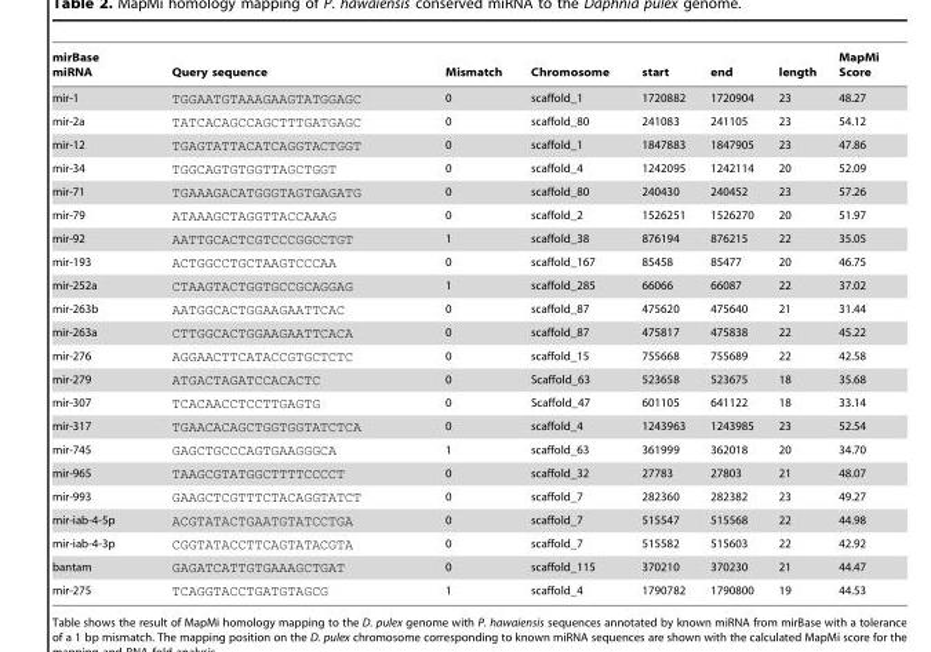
<table><thead><tr><td>mirBase miRNA</td><td>Query sequence</td><td>Mismatch</td><td>Chromosome</td><td>start</td><td>end</td><td>length</td><td>MapMi Score</td></tr></thead><tbody><tr><td>mir-1</td><td>TGGAATGTAAAGAAGTATGGAGC</td><td>0</td><td>scaffold_1</td><td>1720882</td><td>1720904</td><td>23</td><td>48.27</td></tr><tr><td>mir-2a</td><td>TATCACAGCCAGCTTTGATGAGC</td><td>0</td><td>scaffold_80</td><td>241083</td><td>241105</td><td>23</td><td>54.12</td></tr><tr><td>mir-12</td><td>TGAGTATTACATCAGGTACTGGT</td><td>0</td><td>scaffold_1</td><td>1847883</td><td>1847905</td><td>23</td><td>47.86</td></tr><tr><td>mir-34</td><td>TGGCAGTGTGGTTAGCTGGT</td><td>0</td><td>scaffold_4</td><td>1242095</td><td>1242114</td><td>20</td><td>52.09</td></tr><tr><td>mir-71</td><td>TGAAAGACATGGGTAGTGAGATG</td><td>0</td><td>scaffold_80</td><td>240430</td><td>240452</td><td>23</td><td>57.26</td></tr><tr><td>mir-79</td><td>ATAAAGCTAGGTTACCAAAG</td><td>0</td><td>scaffold_2</td><td>1526251</td><td>1526270</td><td>20</td><td>51.97</td></tr><tr><td>mir-92</td><td>AATTGCACTCGTCCCGGCCTGT</td><td>1</td><td>scaffold_38</td><td>876194</td><td>876215</td><td>22</td><td>35.05</td></tr><tr><td>mir-193</td><td>ACTGGCCTGCTAAGTCCCAA</td><td>0</td><td>scaffold_167</td><td>85458</td><td>85477</td><td>20</td><td>46.75</td></tr><tr><td>mir-252a</td><td>CTAAGTACTGGTGCCGCAGGAG</td><td>1</td><td>scaffold_285</td><td>66066</td><td>66087</td><td>22</td><td>37.02</td></tr><tr><td>mir-263b</td><td>AATGGCACTGGAAGAATTCAC</td><td>0</td><td>scaffold_87</td><td>475620</td><td>475640</td><td>21</td><td>31.44</td></tr><tr><td>mir-263a</td><td>CTTGGCACTGGAAGAATTCACA</td><td>0</td><td>scaffold_87</td><td>475817</td><td>475838</td><td>22</td><td>45.22</td></tr><tr><td>mir-276</td><td>AGGAACTTCATACCGTGCTCTC</td><td>0</td><td>scaffold_15</td><td>755668</td><td>755689</td><td>22</td><td>42.58</td></tr><tr><td>mir-279</td><td>ATGACTAGATCCACACTC</td><td>0</td><td>Scaffold_63</td><td>523658</td><td>523675</td><td>18</td><td>35.68</td></tr><tr><td>mir-307</td><td>TCACAACCTCCTTGAGTG</td><td>0</td><td>Scaffold_47</td><td>601105</td><td>641122</td><td>18</td><td>33.14</td></tr><tr><td>mir-317</td><td>TGAACACAGCTGGTGGTATCTCA</td><td>0</td><td>scaffold_4</td><td>1243963</td><td>1243985</td><td>23</td><td>52.54</td></tr><tr><td>mir-745</td><td>GAGCTGCCCAGTGAAGGGCA</td><td>1</td><td>scaffold_63</td><td>361999</td><td>362018</td><td>20</td><td>34.70</td></tr><tr><td>mir-965</td><td>TAAGCGTATGGCTTTTCCCCT</td><td>0</td><td>scaffold_32</td><td>27783</td><td>27803</td><td>21</td><td>48.07</td></tr><tr><td>mir-993</td><td>GAAGCTCGTTTCTACAGGTATCT</td><td>0</td><td>scaffold_7</td><td>282360</td><td>282382</td><td>23</td><td>49.27</td></tr><tr><td>mir-iab-4-5p</td><td>ACGTATACTGAATGTATCCTGA</td><td>0</td><td>scaffold_7</td><td>515547</td><td>515568</td><td>22</td><td>44.98</td></tr><tr><td>mir-iab-4-3p</td><td>CGGTATACCTTCAGTATACGTA</td><td>0</td><td>scaffold_7</td><td>515582</td><td>515603</td><td>22</td><td>42.92</td></tr><tr><td>bantam</td><td>GAGATCATTGTGAAAGCTGAT</td><td>0</td><td>scaffold_115</td><td>370210</td><td>370230</td><td>21</td><td>44.47</td></tr><tr><td>mir-275</td><td>TCAGGTACCTGATGTAGCG</td><td>1</td><td>scaffold_4</td><td>1790782</td><td>1790800</td><td>19</td><td>44.53</td></tr></tbody></table>